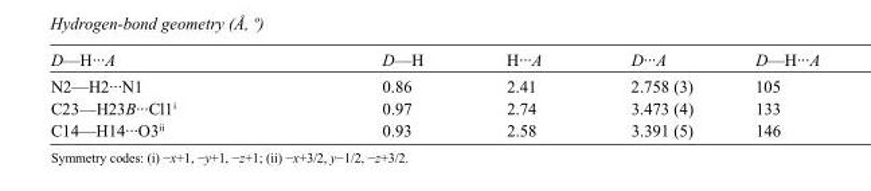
<table><tbody><tr><td>D—H···A</td><td>D—H</td><td>H···A</td><td>D···A</td><td>D—H···A</td></tr><tr><td>N2—H2···N1</td><td>0.86</td><td>2.41</td><td>2.758 (3)</td><td>105</td></tr><tr><td>C23—H23B···Cl1<sup>i</sup></td><td>0.97</td><td>2.74</td><td>3.473 (4)</td><td>133</td></tr><tr><td>C14—H14···O3<sup>ii</sup></td><td>0.93</td><td>2.58</td><td>3.391 (5)</td><td>146</td></tr></tbody></table>